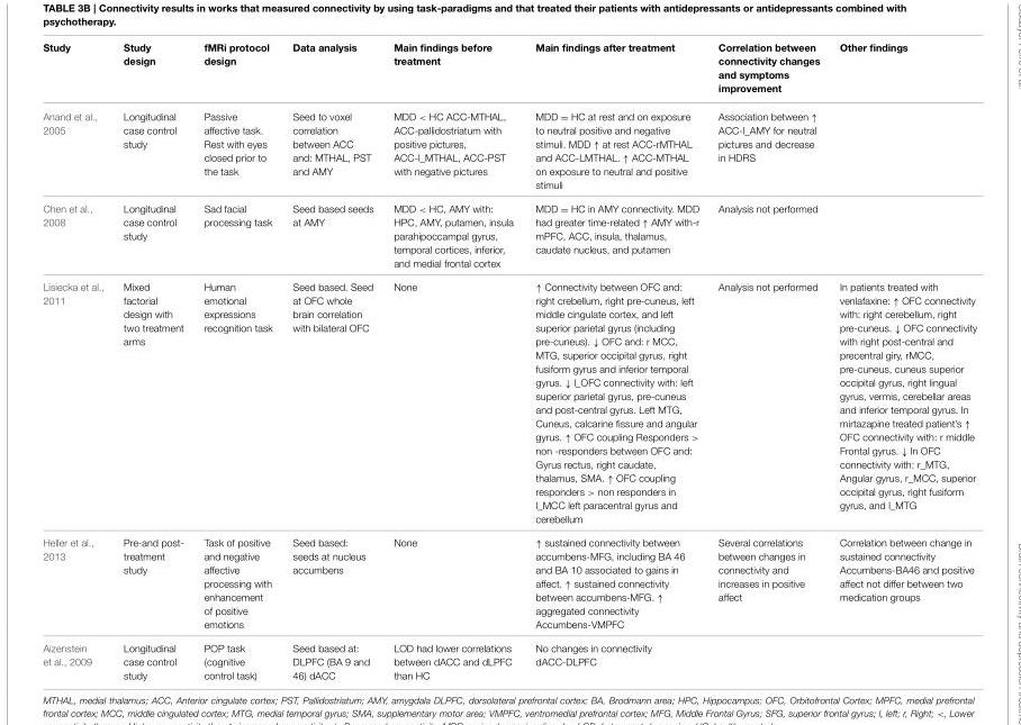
<table><thead><tr><td>Study</td><td>Study design</td><td>fMRi protocol design</td><td>Data analysis</td><td>Main findings before treatment</td><td>Main findings after treatment</td><td>Correlation between connectivity changes and symptoms improvement</td><td>Other findings</td></tr></thead><tbody><tr><td>Anand et al., 2005</td><td>Longitudinal case control study</td><td>Passive affective task. Rest with eyes closed prior to the task</td><td>Seed to voxel correlation between ACC and: MTHAL, PST and AMY</td><td>MDD &lt; HC ACC-MTHAL, ACC-pallidostriatum with positive pictures, ACC-l_MTHAL, ACC-PST with negative pictures</td><td>MDD = HC at rest and on exposure to neutral positive and negative stimuli. MDD ↑ at rest ACC-rMTHAL and ACC-LMTHAL. ↑ ACC-MTHAL on exposure to neutral and positive stimuli</td><td>Association between ↑ ACC-l_AMY for neutral pictures and decrease in HDRS</td><td></td></tr><tr><td>Chen et al., 2008</td><td>Longitudinal case control study</td><td>Sad facial processing task</td><td>Seed based seeds at AMY</td><td>MDD &lt; HC, AMY with: HPC, AMY, putamen, insula parahipoccampal gyrus, temporal cortices, inferior, and medial frontal cortex</td><td>MDD = HC in AMY connectivity. MDD had greater time-related ↑ AMY with-r mPFC, ACC, insula, thalamus, caudate nucleus, and putamen</td><td>Analysis not performed</td><td></td></tr><tr><td>Lisiecka et al., 2011</td><td>Mixed factorial design with two treatment arms</td><td>Human emotional expressions recognition task</td><td>Seed based. Seed at OFC whole brain correlation with bilateral OFC</td><td>None</td><td>↑ Connectivity between OFC and: right crebellum, right pre-cuneus, left middle cingulate cortex, and left superior parietal gyrus (including pre-cuneus). ↓ OFC and: r MCC, MTG, superior occipital gyrus, right fusiform gyrus and inferior temporal gyrus. ↓ l_OFC connectivity with: left superior parietal gyrus, pre-cuneus and post-central gyrus. Left MTG, Cuneus, calcarine fissure and angular gyrus. ↑ OFC coupling Responders &gt; non -responders between OFC and: Gyrus rectus, right caudate, thalamus, SMA. ↑ OFC coupling responders &gt; non responders in l_MCC left paracentral gyrus and cerebellum</td><td>Analysis not performed</td><td>In patients treated with venlafaxine: ↑ OFC connectivity with: right cerebellum, right pre-cuneus. ↓ OFC connectivity with right post-central and precentral giry, rMCC, pre-cuneus, cuneus superior occipital gyrus, right lingual gyrus, vermis, cerebellar areas and inferior temporal gyrus. In mirtazapine treated patient’s ↑ OFC connectivity with: r middle Frontal gyrus. ↓ In OFC connectivity with: r_MTG, Angular gyrus, r_MCC, superior occipital gyrus, right fusiform gyrus, and l_MTG</td></tr><tr><td>Heller et al., 2013</td><td>Pre-and post- treatment study</td><td>Task of positive and negative affective processing with enhancement of positive emotions</td><td>Seed based: seeds at nucleus accumbens</td><td>None</td><td>↑ sustained connectivity between accumbens-MFG, including BA 46 and BA 10 associated to gains in affect. ↑ sustained connectivity between accumbens-MFG. ↑ aggregated connectivity Accumbens-VMPFC</td><td>Several correlations between changes in connectivity and increases in positive affect</td><td>Correlation between change in sustained connectivity Accumbens-BA46 and positive affect not differ between two medication groups</td></tr><tr><td>Aizenstein et al., 2009</td><td>Longitudinal case control study</td><td>POP task (cognitive control task)</td><td>Seed based at: DLPFC (BA 9 and 46) dACC</td><td>LOD had lower correlations between dACC and dLPFC than HC</td><td>No changes in connectivity dACC-DLPFC</td><td></td><td></td></tr></tbody></table>